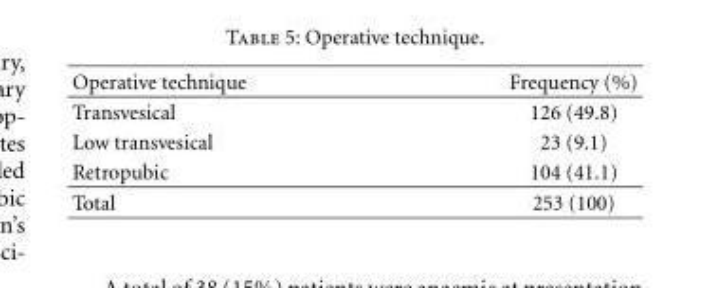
<table><thead><tr><td>Operative technique</td><td>Frequency (%)</td></tr></thead><tbody><tr><td>Transvesical</td><td>126 (49.8)</td></tr><tr><td>Low transvesical</td><td>23 (9.1)</td></tr><tr><td>Retropubic</td><td>104 (41.1)</td></tr><tr><td>Total</td><td>253 (100)</td></tr></tbody></table>